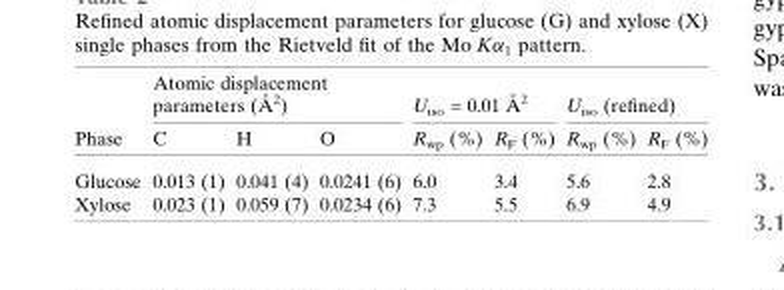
<table><thead><tr><td rowspan="2">Phase</td><td colspan="3">Atomic displacement parameters (A˚ 2)</td><td colspan="2">Uiso = 0.01 A˚ 2</td><td colspan="2">U<sub>iso</sub> (refined)</td></tr><tr><td>C</td><td>H</td><td>O</td><td>R<sub>wp</sub> (%)</td><td>R<sub>F</sub> (%)</td><td>R<sub>wp</sub> (%)</td><td>R<sub>F</sub> (%)</td></tr></thead><tbody><tr><td>Glucose</td><td>0.013 (1)</td><td>0.041 (4)</td><td>0.0241 (6)</td><td>6.0</td><td>3.4</td><td>5.6</td><td>2.8</td></tr><tr><td>Xylose</td><td>0.023 (1)</td><td>0.059 (7)</td><td>0.0234 (6)</td><td>7.3</td><td>5.5</td><td>6.9</td><td>4.9</td></tr></tbody></table>